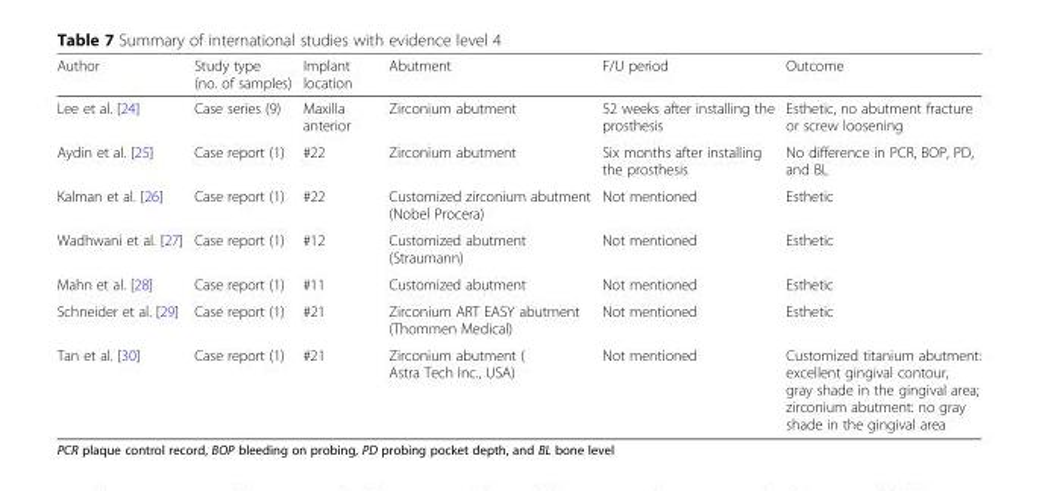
<table><thead><tr><td>Author</td><td>Study type (no. of samples)</td><td>Implant location</td><td>Abutment</td><td>F/U period</td><td>Outcome</td></tr></thead><tbody><tr><td>Lee et al. [24]</td><td>Case series (9)</td><td>Maxilla anterior</td><td>Zirconium abutment</td><td>52 weeks after installing the prosthesis</td><td>Esthetic, no abutment fracture or screw loosening</td></tr><tr><td>Aydin et al. [25]</td><td>Case report (1)</td><td>#22</td><td>Zirconium abutment</td><td>Six months after installing the prosthesis</td><td>No difference in PCR, BOP, PD, and BL</td></tr><tr><td>Kalman et al. [26]</td><td>Case report (1)</td><td>#22</td><td>Customized zirconium abutment (Nobel Procera)</td><td>Not mentioned</td><td>Esthetic</td></tr><tr><td>Wadhwani et al. [27]</td><td>Case report (1)</td><td>#12</td><td>Customized abutment (Straumann)</td><td>Not mentioned</td><td>Esthetic</td></tr><tr><td>Mahn et al. [28]</td><td>Case report (1)</td><td>#11</td><td>Customized abutment</td><td>Not mentioned</td><td>Esthetic</td></tr><tr><td>Schneider et al. [29]</td><td>Case report (1)</td><td>#21</td><td>Zirconium ART EASY abutment (Thommen Medical)</td><td>Not mentioned</td><td>Esthetic</td></tr><tr><td>Tan et al. [30]</td><td>Case report (1)</td><td>#21</td><td>Zirconium abutment ( Astra Tech Inc., USA)</td><td>Not mentioned</td><td>Customized titanium abutment: excellent gingival contour, gray shade in the gingival area; zirconium abutment: no gray shade in the gingival area</td></tr></tbody></table>